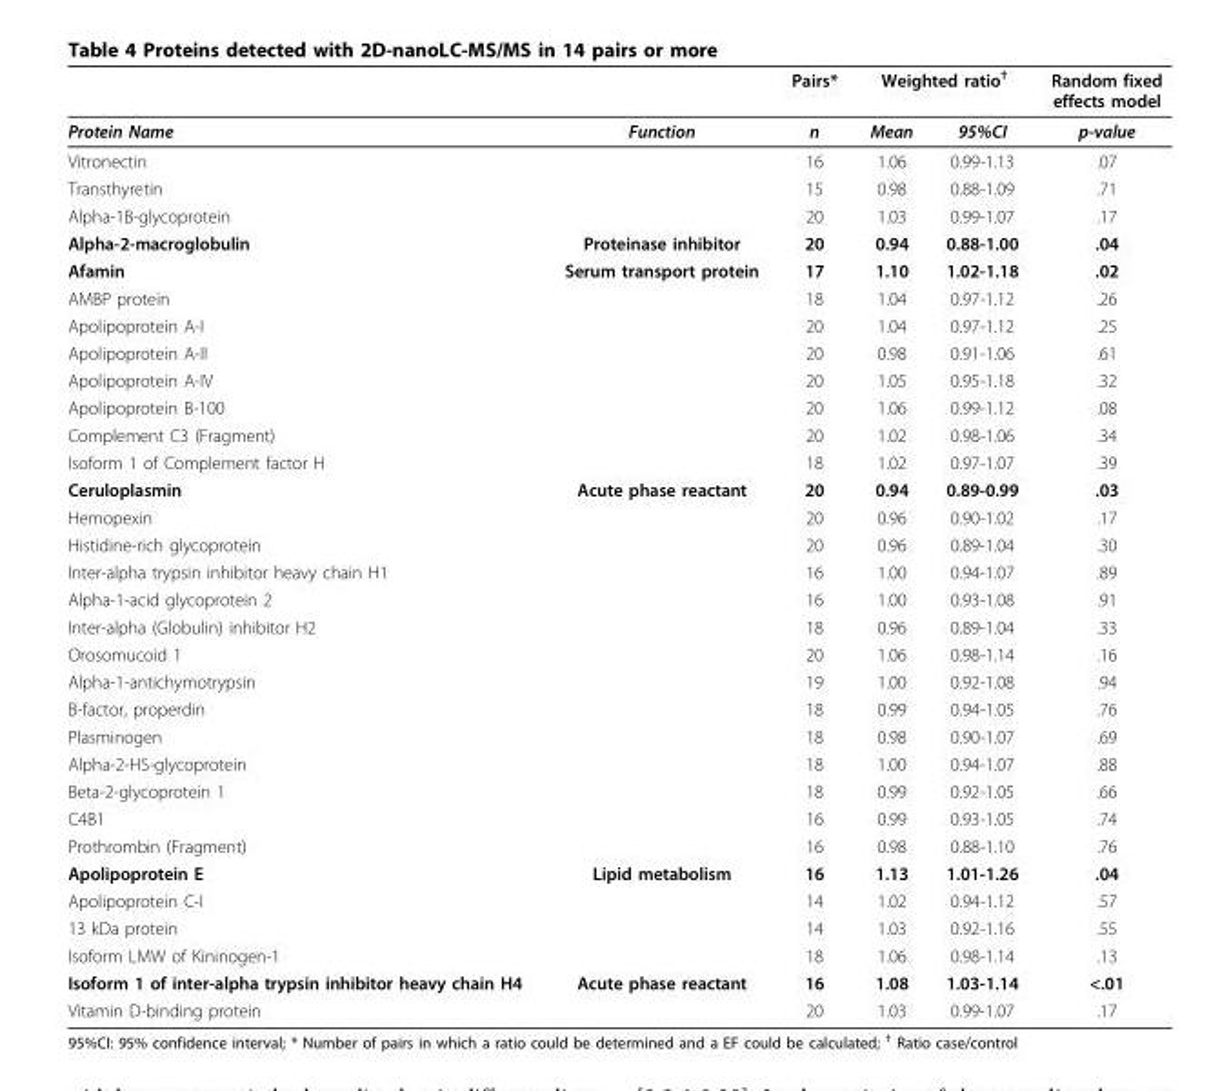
<table><thead><tr><td rowspan="2">Protein Name</td><td rowspan="2">Function</td><td rowspan="2">Pairs* n</td><td colspan="2">Weighted ratio†</td><td rowspan="2">Random fixed effects model p-value</td></tr><tr><td>Mean</td><td>95%CI</td></tr></thead><tbody><tr><td>Vitronectin</td><td></td><td>16</td><td>1.06</td><td>0.99-1.13</td><td>.07</td></tr><tr><td>Transthyretin</td><td></td><td>15</td><td>0.98</td><td>0.88-1.09</td><td>.71</td></tr><tr><td>Alpha-1B-glycoprotein</td><td></td><td>20</td><td>1.03</td><td>0.99-1.07</td><td>.17</td></tr><tr><td>Alpha-2-macroglobulin</td><td>Proteinase inhibitor</td><td>20</td><td>0.94</td><td>0.88-1.00</td><td>.04</td></tr><tr><td>Afamin</td><td>Serum transport protein</td><td>17</td><td>1.10</td><td>1.02-1.18</td><td>.02</td></tr><tr><td>AMBP protein</td><td></td><td>18</td><td>1.04</td><td>0.97-1.12</td><td>.26</td></tr><tr><td>Apolipoprotein A-I</td><td></td><td>20</td><td>1.04</td><td>0.97-1.12</td><td>.25</td></tr><tr><td>Apolipoprotein A-II</td><td></td><td>20</td><td>0.98</td><td>0.91-1.06</td><td>.61</td></tr><tr><td>Apolipoprotein A-IV</td><td></td><td>20</td><td>1.05</td><td>0.95-1.18</td><td>.32</td></tr><tr><td>Apolipoprotein B-100</td><td></td><td>20</td><td>1.06</td><td>0.99-1.12</td><td>.08</td></tr><tr><td>Complement C3 (Fragment)</td><td></td><td>20</td><td>1.02</td><td>0.98-1.06</td><td>.34</td></tr><tr><td>Isoform 1 of Complement factor H</td><td></td><td>18</td><td>1.02</td><td>0.97-1.07</td><td>.39</td></tr><tr><td>Ceruloplasmin</td><td>Acute phase reactant</td><td>20</td><td>0.94</td><td>0.89-0.99</td><td>.03</td></tr><tr><td>Hemopexin</td><td></td><td>20</td><td>0.96</td><td>0.90-1.02</td><td>.17</td></tr><tr><td>Histidine-rich glycoprotein</td><td></td><td>20</td><td>0.96</td><td>0.89-1.04</td><td>.30</td></tr><tr><td>Inter-alpha trypsin inhibitor heavy chain H1</td><td></td><td>16</td><td>1.00</td><td>0.94-1.07</td><td>.89</td></tr><tr><td>Alpha-1-acid glycoprotein 2</td><td></td><td>16</td><td>1.00</td><td>0.93-1.08</td><td>.91</td></tr><tr><td>Inter-alpha (Globulin) inhibitor H2</td><td></td><td>18</td><td>0.96</td><td>0.89-1.04</td><td>.33</td></tr><tr><td>Orosomucoid 1</td><td></td><td>20</td><td>1.06</td><td>0.98-1.14</td><td>.16</td></tr><tr><td>Alpha-1-antichymotrypsin</td><td></td><td>19</td><td>1.00</td><td>0.92-1.08</td><td>.94</td></tr><tr><td>B-factor, properdin</td><td></td><td>18</td><td>0.99</td><td>0.94-1.05</td><td>.76</td></tr><tr><td>Plasminogen</td><td></td><td>18</td><td>0.98</td><td>0.90-1.07</td><td>.69</td></tr><tr><td>Alpha-2-HS-glycoprotein</td><td></td><td>18</td><td>1.00</td><td>0.94-1.07</td><td>.88</td></tr><tr><td>Beta-2-glycoprotein 1</td><td></td><td>18</td><td>0.99</td><td>0.92-1.05</td><td>.66</td></tr><tr><td>C4B1</td><td></td><td>16</td><td>0.99</td><td>0.93-1.05</td><td>.74</td></tr><tr><td>Prothrombin (Fragment)</td><td></td><td>16</td><td>0.98</td><td>0.88-1.10</td><td>.76</td></tr><tr><td>Apolipoprotein E</td><td>Lipid metabolism</td><td>16</td><td>1.13</td><td>1.01-1.26</td><td>.04</td></tr><tr><td>Apolipoprotein C-I</td><td></td><td>14</td><td>1.02</td><td>0.94-1.12</td><td>.57</td></tr><tr><td>13 kDa protein</td><td></td><td>14</td><td>1.03</td><td>0.92-1.16</td><td>.55</td></tr><tr><td>Isoform LMW of Kininogen-1</td><td></td><td>18</td><td>1.06</td><td>0.98-1.14</td><td>.13</td></tr><tr><td>Isoform 1 of inter-alpha trypsin inhibitor heavy chain H4</td><td>Acute phase reactant</td><td>16</td><td>1.08</td><td>1.03-1.14</td><td>&lt;.01</td></tr><tr><td>Vitamin D-binding protein</td><td></td><td>20</td><td>1.03</td><td>0.99-1.07</td><td>.17</td></tr></tbody></table>